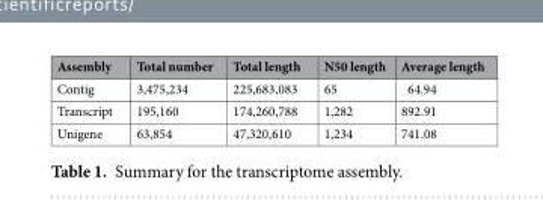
<table><thead><tr><td>Assembly</td><td>Total number</td><td>Total length</td><td>N50 length</td><td>Average length</td></tr></thead><tbody><tr><td>Contig</td><td>3,475,234</td><td>225,683,083</td><td>65</td><td>64.94</td></tr><tr><td>Transcript</td><td>195,160</td><td>174,260,788</td><td>1,282</td><td>892.91</td></tr><tr><td>Unigene</td><td>63,854</td><td>47,320,610</td><td>1,234</td><td>741.08</td></tr></tbody></table>